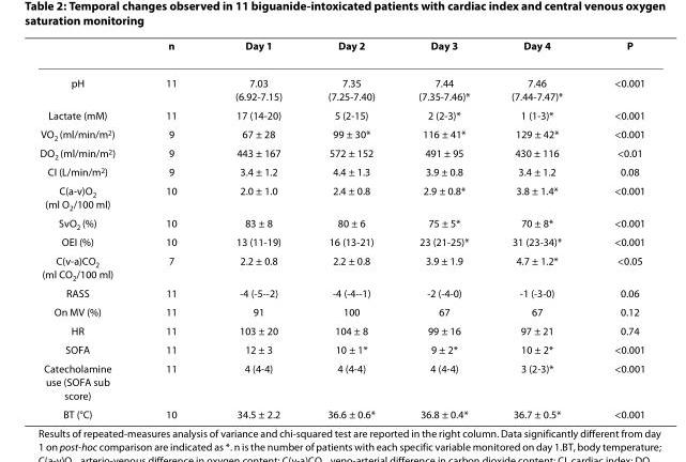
<table><thead><tr><td></td><td>n</td><td>Day 1</td><td>Day 2</td><td>Day 3</td><td>Day 4</td><td>P</td></tr></thead><tbody><tr><td>pH</td><td>11</td><td>7.03 (6.92-7.15)</td><td>7.35 (7.25-7.40)</td><td>7.44 (7.35-7.46)*</td><td>7.46 (7.44-7.47)*</td><td>&lt;0.001</td></tr><tr><td>Lactate (mM)</td><td>11</td><td>17 (14-20)</td><td>5 (2-15)</td><td>2 (2-3)*</td><td>1 (1-3)*</td><td>&lt;0.001</td></tr><tr><td>VO<sub>2</sub> (ml/min/m<sup>2</sup>)</td><td>9</td><td>67 ± 28</td><td>99 ± 30*</td><td>116 ± 41*</td><td>129 ± 42*</td><td>&lt;0.001</td></tr><tr><td>DO<sub>2</sub> (ml/min/m<sup>2</sup>)</td><td>9</td><td>443 ± 167</td><td>572 ± 152</td><td>491 ± 95</td><td>430 ± 116</td><td>&lt;0.01</td></tr><tr><td>CI (L/min/m<sup>2</sup>)</td><td>9</td><td>3.4 ± 1.2</td><td>4.4 ± 1.3</td><td>3.9 ± 0.8</td><td>3.4 ± 1.2</td><td>0.08</td></tr><tr><td>C(a-v)O<sub>2</sub> (ml O<sub>2</sub>/100 ml)</td><td>10</td><td>2.0 ± 1.0</td><td>2.4 ± 0.8</td><td>2.9 ± 0.8*</td><td>3.8 ± 1.4*</td><td>&lt;0.001</td></tr><tr><td>SvO<sub>2</sub> (%)</td><td>10</td><td>83 ± 8</td><td>80 ± 6</td><td>75 ± 5*</td><td>70 ± 8*</td><td>&lt;0.001</td></tr><tr><td>OEI (%)</td><td>10</td><td>13 (11-19)</td><td>16 (13-21)</td><td>23 (21-25)*</td><td>31 (23-34)*</td><td>&lt;0.001</td></tr><tr><td>C(v-a)CO<sub>2</sub> (ml CO<sub>2</sub>/100 ml)</td><td>7</td><td>2.2 ± 0.8</td><td>2.2 ± 0.8</td><td>3.9 ± 1.9</td><td>4.7 ± 1.2*</td><td>&lt;0.05</td></tr><tr><td>RASS</td><td>11</td><td>-4 (-5--2)</td><td>-4 (-4--1)</td><td>-2 (-4-0)</td><td>-1 (-3-0)</td><td>0.06</td></tr><tr><td>On MV (%)</td><td>11</td><td>91</td><td>100</td><td>67</td><td>67</td><td>0.12</td></tr><tr><td>HR</td><td>11</td><td>103 ± 20</td><td>104 ± 8</td><td>99 ± 16</td><td>97 ± 21</td><td>0.74</td></tr><tr><td>SOFA</td><td>11</td><td>12 ± 3</td><td>10 ± 1*</td><td>9 ± 2*</td><td>10 ± 2*</td><td>&lt;0.001</td></tr><tr><td>Catecholamine use (SOFA sub score)</td><td>11</td><td>4 (4-4)</td><td>4 (4-4)</td><td>4 (4-4)</td><td>3 (2-3)*</td><td>&lt;0.001</td></tr><tr><td>BT (°C)</td><td>10</td><td>34.5 ± 2.2</td><td>36.6 ± 0.6*</td><td>36.8 ± 0.4*</td><td>36.7 ± 0.5*</td><td>&lt;0.001</td></tr></tbody></table>